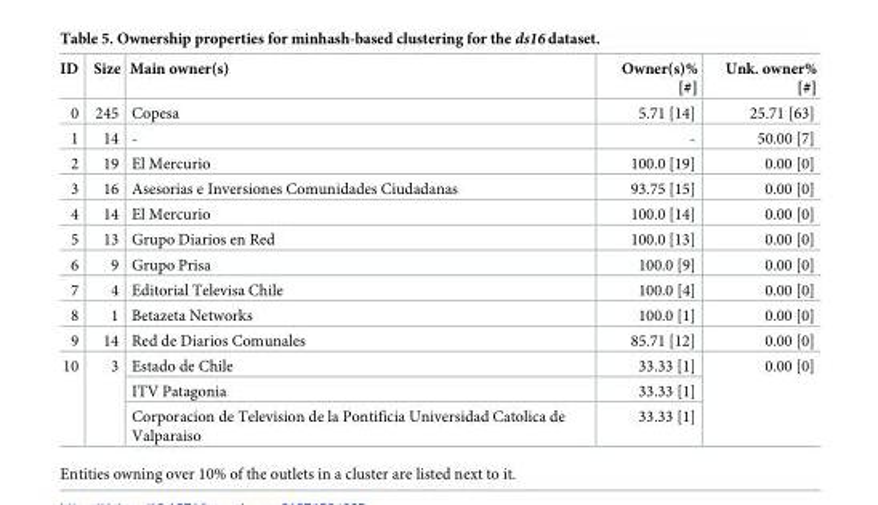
<table><thead><tr><td>ID</td><td>Size</td><td>Main owner(s)</td><td>Owner(s)% [#]</td><td>Unk. owner% [#]</td></tr></thead><tbody><tr><td>0</td><td>245</td><td>Copesa</td><td>5.71 [14]</td><td>25.71 [63]</td></tr><tr><td>1</td><td>14</td><td>-</td><td>-</td><td>50.00 [7]</td></tr><tr><td>2</td><td>19</td><td>El Mercurio</td><td>100.0 [19]</td><td>0.00 [0]</td></tr><tr><td>3</td><td>16</td><td>Asesorias e Inversiones Comunidades Ciudadanas</td><td>93.75 [15]</td><td>0.00 [0]</td></tr><tr><td>4</td><td>14</td><td>El Mercurio</td><td>100.0 [14]</td><td>0.00 [0]</td></tr><tr><td>5</td><td>13</td><td>Grupo Diarios en Red</td><td>100.0 [13]</td><td>0.00 [0]</td></tr><tr><td>6</td><td>9</td><td>Grupo Prisa</td><td>100.0 [9]</td><td>0.00 [0]</td></tr><tr><td>7</td><td>4</td><td>Editorial Televisa Chile</td><td>100.0 [4]</td><td>0.00 [0]</td></tr><tr><td>8</td><td>1</td><td>Betazeta Networks</td><td>100.0 [1]</td><td>0.00 [0]</td></tr><tr><td>9</td><td>14</td><td>Red de Diarios Comunales</td><td>85.71 [12]</td><td>0.00 [0]</td></tr><tr><td rowspan="3">10</td><td rowspan="3">3</td><td>Estado de Chile</td><td>33.33 [1]</td><td rowspan="3">0.00 [0]</td></tr><tr><td>ITV Patagonia</td><td>33.33 [1]</td></tr><tr><td>Corporacion de Television de la Pontificia Universidad Catolica de Valparaiso</td><td>33.33 [1]</td></tr></tbody></table>